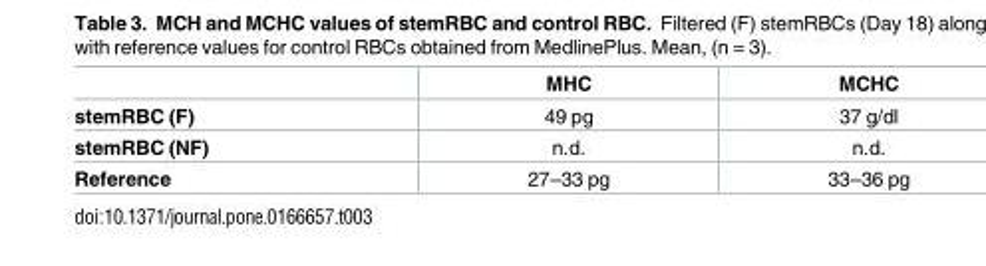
<table><thead><tr><td></td><td>MHC</td><td>MCHC</td></tr></thead><tbody><tr><td>stemRBC (F)</td><td>49 pg</td><td>37 g/dl</td></tr><tr><td>stemRBC (NF)</td><td>n.d.</td><td>n.d.</td></tr><tr><td>Reference</td><td>27–33 pg</td><td>33–36 pg</td></tr></tbody></table>